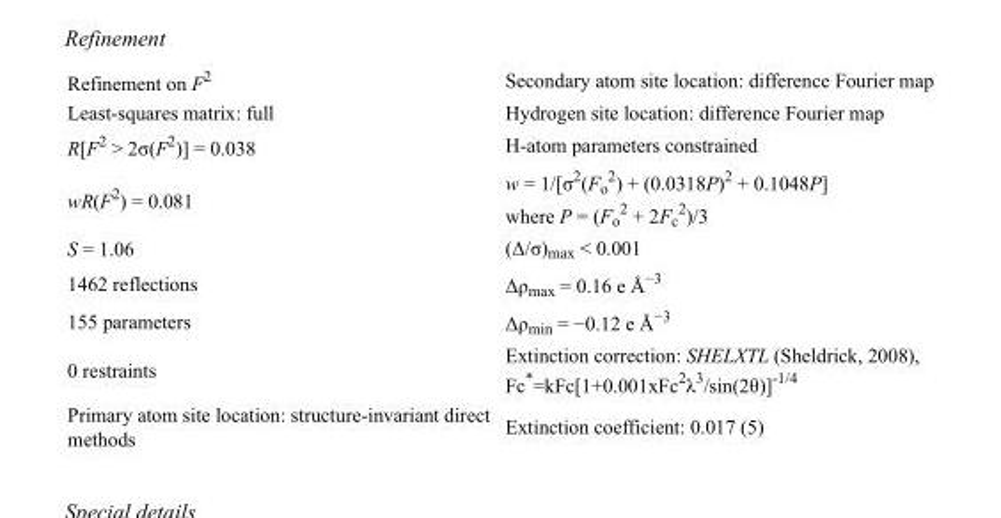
<table><tbody><tr><td>Refinement on F<sup>2</sup></td><td>Secondary atom site location: difference Fourier map</td></tr><tr><td>Least-squares matrix: full</td><td>Hydrogen site location: difference Fourier map</td></tr><tr><td>R[F<sup>2</sup> &gt; 2σ(F<sup>2</sup>)] = 0.038</td><td>H-atom parameters constrained</td></tr><tr><td>wR(F<sup>2</sup>) = 0.081</td><td>w = 1/[σ<sup>2</sup>(F<sub>o</sub> <sup>2</sup>) + (0.0318P)<sup>2</sup> + 0.1048P] where P = (F<sub>o</sub> <sup>2</sup> + 2F<sub>c</sub> <sup>2</sup>)/3</td></tr><tr><td>S = 1.06</td><td>(Δ/σ)<sub>max</sub> &lt; 0.001</td></tr><tr><td>1462 reflections</td><td>Δρ<sub>max</sub> = 0.16 e Å<sup>−3</sup></td></tr><tr><td>155 parameters</td><td>Δρ<sub>min</sub> = −0.12 e Å<sup>−3</sup></td></tr><tr><td>0 restraints</td><td>Extinction correction: SHELXTL (Sheldrick, 2008), Fc*=kFc[1+0.001xFc<sup>2</sup>λ<sup>3</sup>/sin(2θ)]<sup>-1/4</sup></td></tr><tr><td>Primary atom site location: structure-invariant direct methods</td><td>Extinction coefficient: 0.017 (5)</td></tr></tbody></table>